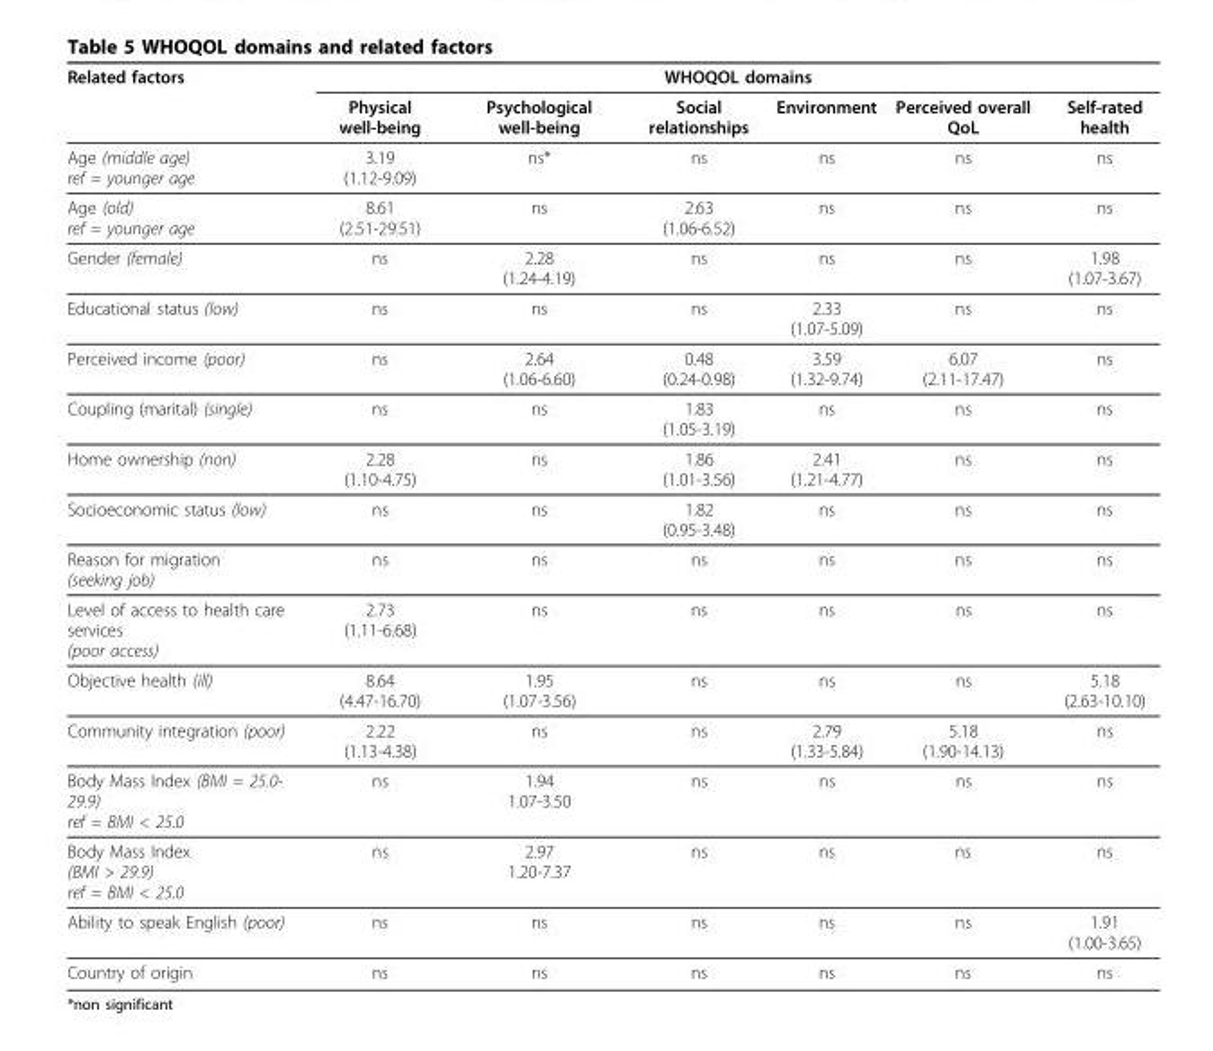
<table><thead><tr><td rowspan="2">Related factors</td><td colspan="6">WHOQOL domains</td></tr><tr><td>Physical well-being</td><td>Psychological well-being</td><td>Social relationships</td><td>Environment</td><td>Perceived overall QoL</td><td>Self-rated health</td></tr></thead><tbody><tr><td>Age (middle age) ref = younger age</td><td>3.19 (1.12-9.09)</td><td>ns*</td><td>ns</td><td>ns</td><td>ns</td><td>ns</td></tr><tr><td>Age (old) ref = younger age</td><td>8.61 (2.51-29.51)</td><td>ns</td><td>2.63 (1.06-6.52)</td><td>ns</td><td>ns</td><td>ns</td></tr><tr><td>Gender (female)</td><td>ns</td><td>2.28 (1.24-4.19)</td><td>ns</td><td>ns</td><td>ns</td><td>1.98 (1.07-3.67)</td></tr><tr><td>Educational status (low)</td><td>ns</td><td>ns</td><td>ns</td><td>2.33 (1.07-5.09)</td><td>ns</td><td>ns</td></tr><tr><td>Perceived income (poor)</td><td>ns</td><td>2.64 (1.06-6.60)</td><td>0.48 (0.24-0.98)</td><td>3.59 (1.32-9.74)</td><td>6.07 (2.11-17.47)</td><td>ns</td></tr><tr><td>Coupling (marital) (single)</td><td>ns</td><td>ns</td><td>1.83 (1.05-3.19)</td><td>ns</td><td>ns</td><td>ns</td></tr><tr><td>Home ownership (non)</td><td>2.28 (1.10-4.75)</td><td>ns</td><td>1.86 (1.01-3.56)</td><td>2.41 (1.21-4.77)</td><td>ns</td><td>ns</td></tr><tr><td>Socioeconomic status (low)</td><td>ns</td><td>ns</td><td>1.82 (0.95-3.48)</td><td>ns</td><td>ns</td><td>ns</td></tr><tr><td>Reason for migration (seeking job)</td><td>ns</td><td>ns</td><td>ns</td><td>ns</td><td>ns</td><td>ns</td></tr><tr><td>Level of access to health care services (poor access)</td><td>2.73 (1.11-6.68)</td><td>ns</td><td>ns</td><td>ns</td><td>ns</td><td>ns</td></tr><tr><td>Objective health (ill)</td><td>8.64 (4.47-16.70)</td><td>1.95 (1.07-3.56)</td><td>ns</td><td>ns</td><td>ns</td><td>5.18 (2.63-10.10)</td></tr><tr><td>Community integration (poor)</td><td>2.22 (1.13-4.38)</td><td>ns</td><td>ns</td><td>2.79 (1.33-5.84)</td><td>5.18 (1.90-14.13)</td><td>ns</td></tr><tr><td>Body Mass Index (BMI = 25.0- 29.9) ref = BMI &lt; 25.0</td><td>ns</td><td>1.94 1.07-3.50</td><td>ns</td><td>ns</td><td>ns</td><td>ns</td></tr><tr><td>Body Mass Index (BMI &gt; 29.9) ref = BMI &lt; 25.0</td><td>ns</td><td>2.97 1.20-7.37</td><td>ns</td><td>ns</td><td>ns</td><td>ns</td></tr><tr><td>Ability to speak English (poor)</td><td>ns</td><td>ns</td><td>ns</td><td>ns</td><td>ns</td><td>1.91 (1.00-3.65)</td></tr><tr><td>Country of origin</td><td>ns</td><td>ns</td><td>ns</td><td>ns</td><td>ns</td><td>ns</td></tr></tbody></table>